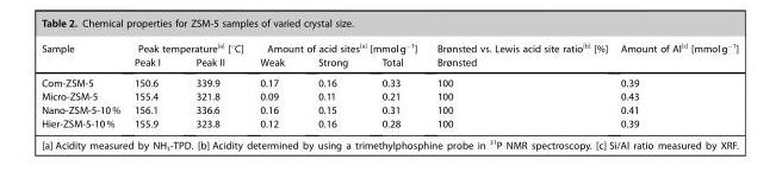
<table><thead><tr><td rowspan="2">Sample</td><td colspan="2">Peak temperature<sup>[a]</sup> [°C]</td><td colspan="3">Amount of acid sites<sup>[a]</sup> [mmolg<sup>−1</sup>]</td><td rowspan="2">Brønsted vs. Lewis acid site ratio<sup>[b]</sup> [%] Brønsted</td><td rowspan="2">Amount of Al<sup>[c]</sup> [mmolg<sup>−1</sup>]</td></tr><tr><td>Peak I</td><td>Peak II</td><td>Weak</td><td>Strong</td><td>Total</td></tr></thead><tbody><tr><td>Com-ZSM-5</td><td>150.6</td><td>339.9</td><td>0.17</td><td>0.16</td><td>0.33</td><td>100</td><td>0.39</td></tr><tr><td>Micro-ZSM-5</td><td>155.4</td><td>321.8</td><td>0.09</td><td>0.11</td><td>0.21</td><td>100</td><td>0.43</td></tr><tr><td>Nano-ZSM-5-10%</td><td>156.1</td><td>336.6</td><td>0.16</td><td>0.15</td><td>0.31</td><td>100</td><td>0.41</td></tr><tr><td>Hier-ZSM-5-10%</td><td>155.9</td><td>323.8</td><td>0.12</td><td>0.16</td><td>0.28</td><td>100</td><td>0.39</td></tr></tbody></table>